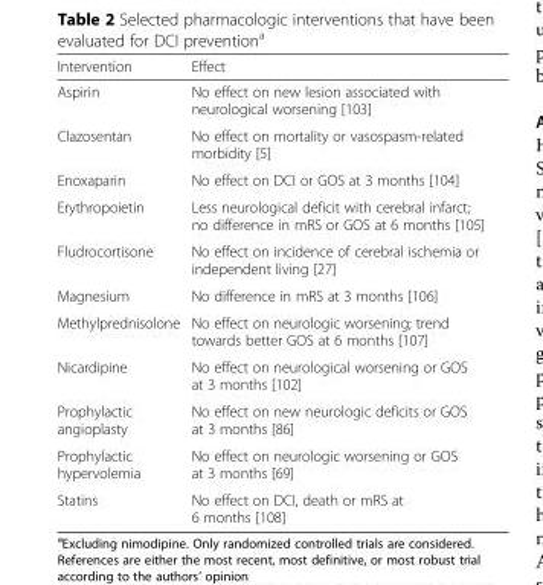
<table><thead><tr><td>Intervention</td><td>Effect</td></tr></thead><tbody><tr><td>Aspirin</td><td>No effect on new lesion associated with neurological worsening [103]</td></tr><tr><td>Clazosentan</td><td>No effect on mortality or vasospasm-related morbidity [5]</td></tr><tr><td>Enoxaparin</td><td>No effect on DCI or GOS at 3 months [104]</td></tr><tr><td>Erythropoietin</td><td>Less neurological deficit with cerebral infarct; no difference in mRS or GOS at 6 months [105]</td></tr><tr><td>Fludrocortisone</td><td>No effect on incidence of cerebral ischemia or independent living [27]</td></tr><tr><td>Magnesium</td><td>No difference in mRS at 3 months [106]</td></tr><tr><td>Methylprednisolone</td><td>No effect on neurologic worsening; trend towards better GOS at 6 months [107]</td></tr><tr><td>Nicardipine</td><td>No effect on neurological worsening or GOS at 3 months [102]</td></tr><tr><td>Prophylactic angioplasty</td><td>No effect on new neurologic deficits or GOS at 3 months [86]</td></tr><tr><td>Prophylactic hypervolemia</td><td>No effect on neurologic worsening or GOS at 3 months [69]</td></tr><tr><td>Statins</td><td>No effect on DCI, death or mRS at 6 months [108]</td></tr></tbody></table>